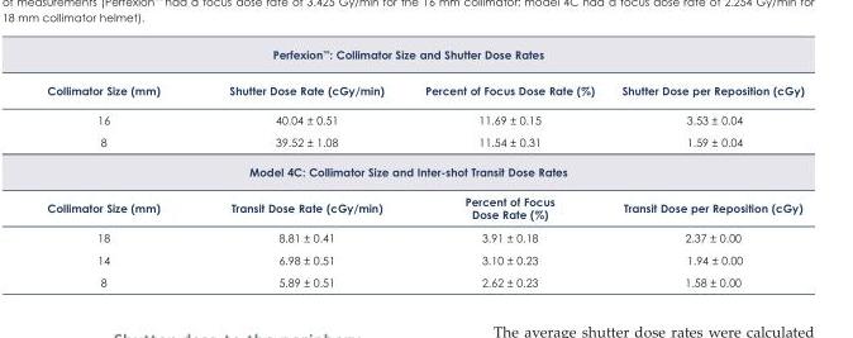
<table><tbody><tr><td colspan="4">Perfexion<sup>™</sup>: Collimator Size and Shutter Dose Rates</td></tr><tr><td>Collimator Size (mm)</td><td>Shutter Dose Rate (cGy/min)</td><td>Percent of Focus Dose Rate (%)</td><td>Shutter Dose per Reposition (cGy)</td></tr><tr><td>16</td><td>40.04 ± 0.51</td><td>11.69 ± 0.15</td><td>3.53 ± 0.04</td></tr><tr><td>8</td><td>39.52 ± 1.08</td><td>11.54 ± 0.31</td><td>1.59 ± 0.04</td></tr><tr><td colspan="4">Model 4C: Collimator Size and Inter-shot Transit Dose Rates</td></tr><tr><td>Collimator Size (mm)</td><td>Transit Dose Rate (cGy/min)</td><td>Percent of Focus Dose Rate (%)</td><td>Transit Dose per Reposition (cGy)</td></tr><tr><td>18</td><td>8.81 ± 0.41</td><td>3.91 ± 0.18</td><td>2.37 ± 0.00</td></tr><tr><td>14</td><td>6.98 ± 0.51</td><td>3.10 ± 0.23</td><td>1.94 ± 0.00</td></tr><tr><td>8</td><td>5.89 ± 0.51</td><td>2.62 ± 0.23</td><td>1.58 ± 0.00</td></tr></tbody></table>